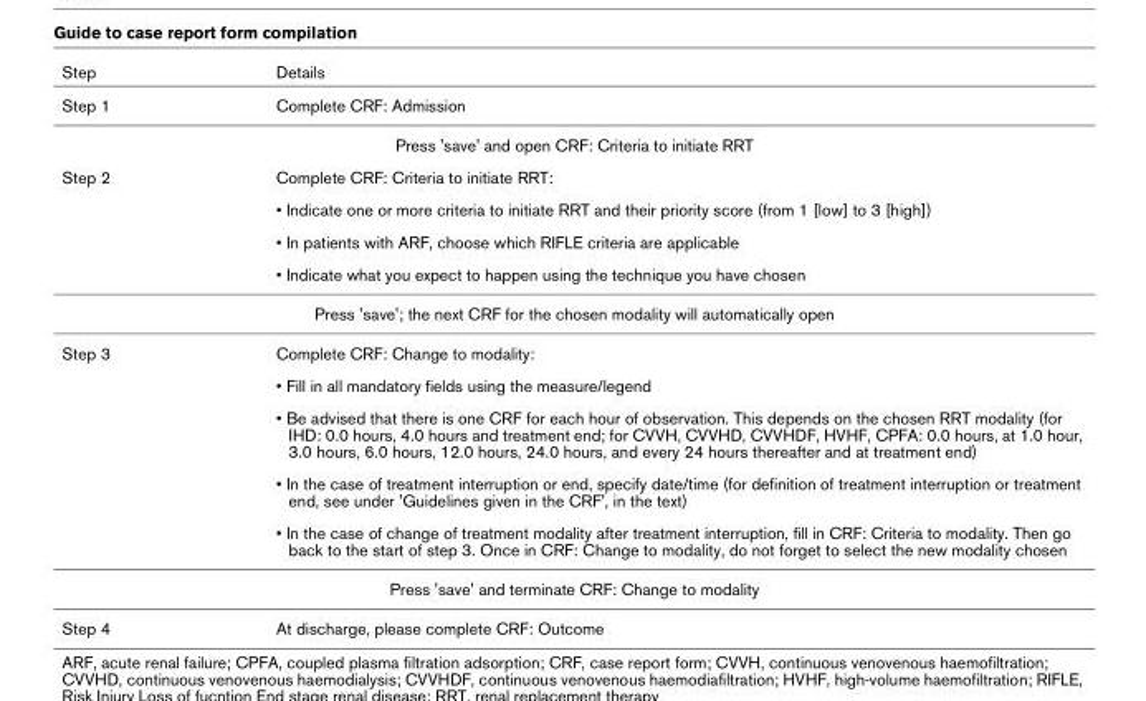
<table><thead><tr><td>Step</td><td>Details</td></tr></thead><tbody><tr><td>Step 1</td><td>Complete CRF: Admission</td></tr><tr><td colspan="2">Press &#x27;save&#x27; and open CRF: Criteria to initiate RRT</td></tr><tr><td rowspan="4">Step 2</td><td>Complete CRF: Criteria to initiate RRT:</td></tr><tr><td>• Indicate one or more criteria to initiate RRT and their priority score (from 1 [low] to 3 [high])</td></tr><tr><td>• In patients with ARF, choose which RIFLE criteria are applicable</td></tr><tr><td>• Indicate what you expect to happen using the technique you have chosen</td></tr><tr><td colspan="2">Press &#x27;save&#x27;; the next CRF for the chosen modality will automatically open</td></tr><tr><td rowspan="5">Step 3</td><td>Complete CRF: Change to modality:</td></tr><tr><td>• Fill in all mandatory fields using the measure/legend</td></tr><tr><td>• Be advised that there is one CRF for each hour of observation. This depends on the chosen RRT modality (for IHD: 0.0 hours, 4.0 hours and treatment end; for CVVH, CVVHD, CVVHDF, HVHF, CPFA: 0.0 hours, at 1.0 hour, 3.0 hours, 6.0 hours, 12.0 hours, 24.0 hours, and every 24 hours thereafter and at treatment end)</td></tr><tr><td>• In the case of treatment interruption or end, specify date/time (for definition of treatment interruption or treatment end, see under &#x27;Guidelines given in the CRF&#x27;, in the text)</td></tr><tr><td>• In the case of change of treatment modality after treatment interruption, fill in CRF: Criteria to modality. Then go back to the start of step 3. Once in CRF: Change to modality, do not forget to select the new modality chosen</td></tr><tr><td colspan="2">Press &#x27;save&#x27; and terminate CRF: Change to modality</td></tr><tr><td>Step 4</td><td>At discharge, please complete CRF: Outcome</td></tr></tbody></table>